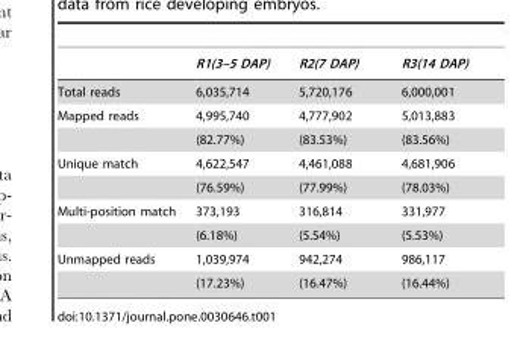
<table><thead><tr><td></td><td>R1(3–5 DAP)</td><td>R2(7 DAP)</td><td>R3(14 DAP)</td></tr></thead><tbody><tr><td>Total reads</td><td>6,035,714</td><td>5,720,176</td><td>6,000,001</td></tr><tr><td rowspan="2">Mapped reads</td><td>4,995,740</td><td>4,777,902</td><td>5,013,883</td></tr><tr><td>(82.77%)</td><td>(83.53%)</td><td>(83.56%)</td></tr><tr><td rowspan="2">Unique match</td><td>4,622,547</td><td>4,461,088</td><td>4,681,906</td></tr><tr><td>(76.59%)</td><td>(77.99%)</td><td>(78.03%)</td></tr><tr><td rowspan="2">Multi-position match</td><td>373,193</td><td>316,814</td><td>331,977</td></tr><tr><td>(6.18%)</td><td>(5.54%)</td><td>(5.53%)</td></tr><tr><td rowspan="2">Unmapped reads</td><td>1,039,974</td><td>942,274</td><td>986,117</td></tr><tr><td>(17.23%)</td><td>(16.47%)</td><td>(16.44%)</td></tr></tbody></table>